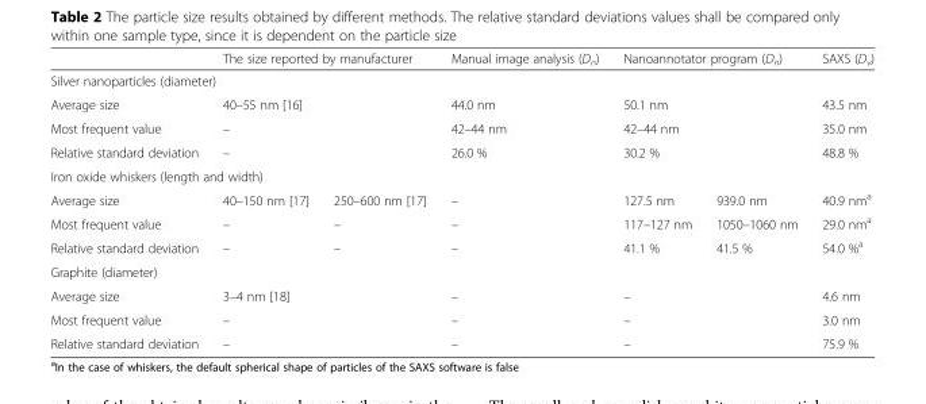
<table><thead><tr><td></td><td colspan="2">The size reported by manufacturer</td><td>Manual image analysis (D<sub>n</sub>)</td><td colspan="2">Nanoannotator program (D<sub>n</sub>)</td><td>SAXS (D<sub>v</sub>)</td></tr></thead><tbody><tr><td colspan="7">Silver nanoparticles (diameter)</td></tr><tr><td>Average size</td><td colspan="2">40–55 nm [16]</td><td>44.0 nm</td><td colspan="2">50.1 nm</td><td>43.5 nm</td></tr><tr><td>Most frequent value</td><td colspan="2">–</td><td>42–44 nm</td><td colspan="2">42–44 nm</td><td>35.0 nm</td></tr><tr><td>Relative standard deviation</td><td colspan="2">–</td><td>26.0 %</td><td colspan="2">30.2 %</td><td>48.8 %</td></tr><tr><td colspan="7">Iron oxide whiskers (length and width)</td></tr><tr><td>Average size</td><td>40–150 nm [17]</td><td>250–600 nm [17]</td><td>–</td><td>127.5 nm</td><td>939.0 nm</td><td>40.9 nm<sup>a</sup></td></tr><tr><td>Most frequent value</td><td>–</td><td>–</td><td>–</td><td>117–127 nm</td><td>1050–1060 nm</td><td>29.0 nm<sup>a</sup></td></tr><tr><td>Relative standard deviation</td><td>–</td><td>–</td><td>–</td><td>41.1 %</td><td>41.5 %</td><td>54.0 %<sup>a</sup></td></tr><tr><td colspan="7">Graphite (diameter)</td></tr><tr><td>Average size</td><td colspan="2">3–4 nm [18]</td><td>–</td><td colspan="2">–</td><td>4.6 nm</td></tr><tr><td>Most frequent value</td><td colspan="2">–</td><td>–</td><td colspan="2">–</td><td>3.0 nm</td></tr><tr><td>Relative standard deviation</td><td colspan="2">–</td><td>–</td><td colspan="2">–</td><td>75.9 %</td></tr></tbody></table>